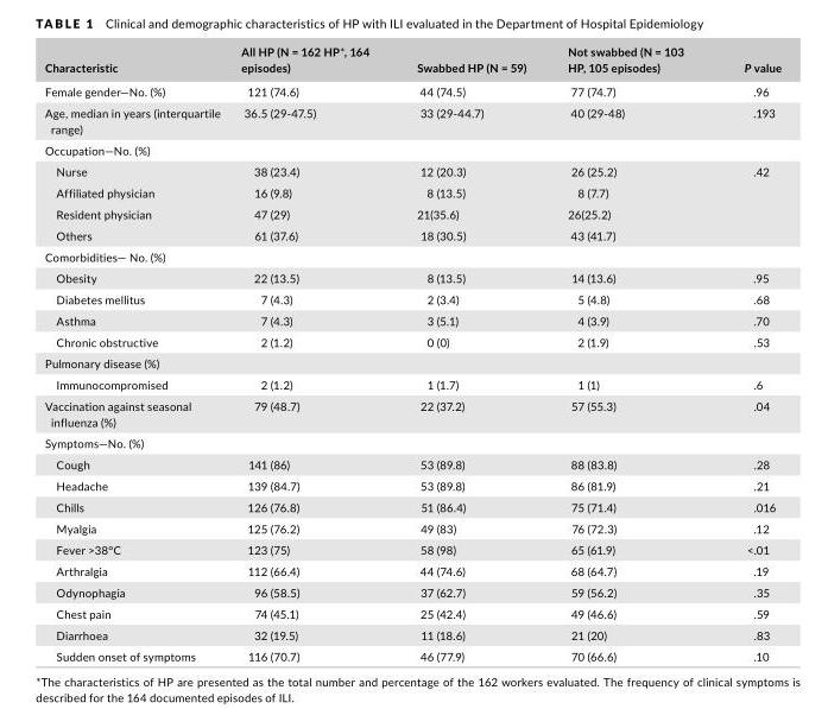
<table><thead><tr><td>Characteristic</td><td>All HP (N = 162 HP*, 164 episodes)</td><td>Swabbed HP (N = 59)</td><td>Not swabbed (N = 103 HP, 105 episodes)</td><td>P value</td></tr></thead><tbody><tr><td>Female gender—No. (%)</td><td>121 (74.6)</td><td>44 (74.5)</td><td>77 (74.7)</td><td>.96</td></tr><tr><td>Age, median in years (interquartile range)</td><td>36.5 (29- 47.5)</td><td>33 (29- 44.7)</td><td>40 (29- 48)</td><td>.193</td></tr><tr><td colspan="5">Occupation—No. (%)</td></tr><tr><td>Nurse</td><td>38 (23.4)</td><td>12 (20.3)</td><td>26 (25.2)</td><td rowspan="4">.42</td></tr><tr><td>Affiliated physician</td><td>16 (9.8)</td><td>8 (13.5)</td><td>8 (7.7)</td></tr><tr><td>Resident physician</td><td>47 (29)</td><td>21(35.6)</td><td>26(25.2)</td></tr><tr><td>Others</td><td>61 (37.6)</td><td>18 (30.5)</td><td>43 (41.7)</td></tr><tr><td colspan="5">Comorbidities— No. (%)</td></tr><tr><td>Obesity</td><td>22 (13.5)</td><td>8 (13.5)</td><td>14 (13.6)</td><td>.95</td></tr><tr><td>Diabetes mellitus</td><td>7 (4.3)</td><td>2 (3.4)</td><td>5 (4.8)</td><td>.68</td></tr><tr><td>Asthma</td><td>7 (4.3)</td><td>3 (5.1)</td><td>4 (3.9)</td><td>.70</td></tr><tr><td>Chronic obstructive</td><td>2 (1.2)</td><td>0 (0)</td><td>2 (1.9)</td><td>.53</td></tr><tr><td colspan="5">Pulmonary disease (%)</td></tr><tr><td>Immunocompromised</td><td>2 (1.2)</td><td>1 (1.7)</td><td>1 (1)</td><td>.6</td></tr><tr><td>Vaccination against seasonal influenza (%)</td><td>79 (48.7)</td><td>22 (37.2)</td><td>57 (55.3)</td><td>.04</td></tr><tr><td colspan="5">Symptoms—No. (%)</td></tr><tr><td>Cough</td><td>141 (86)</td><td>53 (89.8)</td><td>88 (83.8)</td><td>.28</td></tr><tr><td>Headache</td><td>139 (84.7)</td><td>53 (89.8)</td><td>86 (81.9)</td><td>.21</td></tr><tr><td>Chills</td><td>126 (76.8)</td><td>51 (86.4)</td><td>75 (71.4)</td><td>.016</td></tr><tr><td>Myalgia</td><td>125 (76.2)</td><td>49 (83)</td><td>76 (72.3)</td><td>.12</td></tr><tr><td>Fever &gt;38°C</td><td>123 (75)</td><td>58 (98)</td><td>65 (61.9)</td><td>&lt;.01</td></tr><tr><td>Arthralgia</td><td>112 (66.4)</td><td>44 (74.6)</td><td>68 (64.7)</td><td>.19</td></tr><tr><td>Odynophagia</td><td>96 (58.5)</td><td>37 (62.7)</td><td>59 (56.2)</td><td>.35</td></tr><tr><td>Chest pain</td><td>74 (45.1)</td><td>25 (42.4)</td><td>49 (46.6)</td><td>.59</td></tr><tr><td>Diarrhoea</td><td>32 (19.5)</td><td>11 (18.6)</td><td>21 (20)</td><td>.83</td></tr><tr><td>Sudden onset of symptoms</td><td>116 (70.7)</td><td>46 (77.9)</td><td>70 (66.6)</td><td>.10</td></tr></tbody></table>